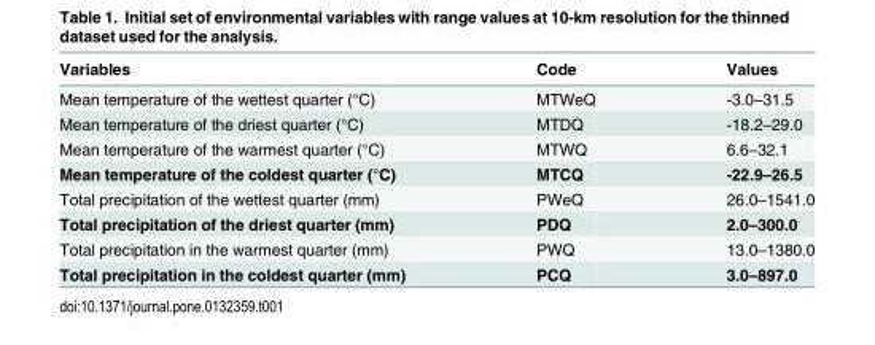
<table><thead><tr><td>Variables</td><td>Code</td><td>Values</td></tr></thead><tbody><tr><td>Mean temperature of the wettest quarter (°C)</td><td>MTWeQ</td><td>-3.0–31.5</td></tr><tr><td>Mean temperature of the driest quarter (°C)</td><td>MTDQ</td><td>-18.2–29.0</td></tr><tr><td>Mean temperature of the warmest quarter (°C)</td><td>MTWQ</td><td>6.6–32.1</td></tr><tr><td>Mean temperature of the coldest quarter (°C)</td><td>MTCQ</td><td>-22.9–26.5</td></tr><tr><td>Total precipitation of the wettest quarter (mm)</td><td>PWeQ</td><td>26.0–1541.0</td></tr><tr><td>Total precipitation of the driest quarter (mm)</td><td>PDQ</td><td>2.0–300.0</td></tr><tr><td>Total precipitation in the warmest quarter (mm)</td><td>PWQ</td><td>13.0–1380.0</td></tr><tr><td>Total precipitation in the coldest quarter (mm)</td><td>PCQ</td><td>3.0–897.0</td></tr></tbody></table>